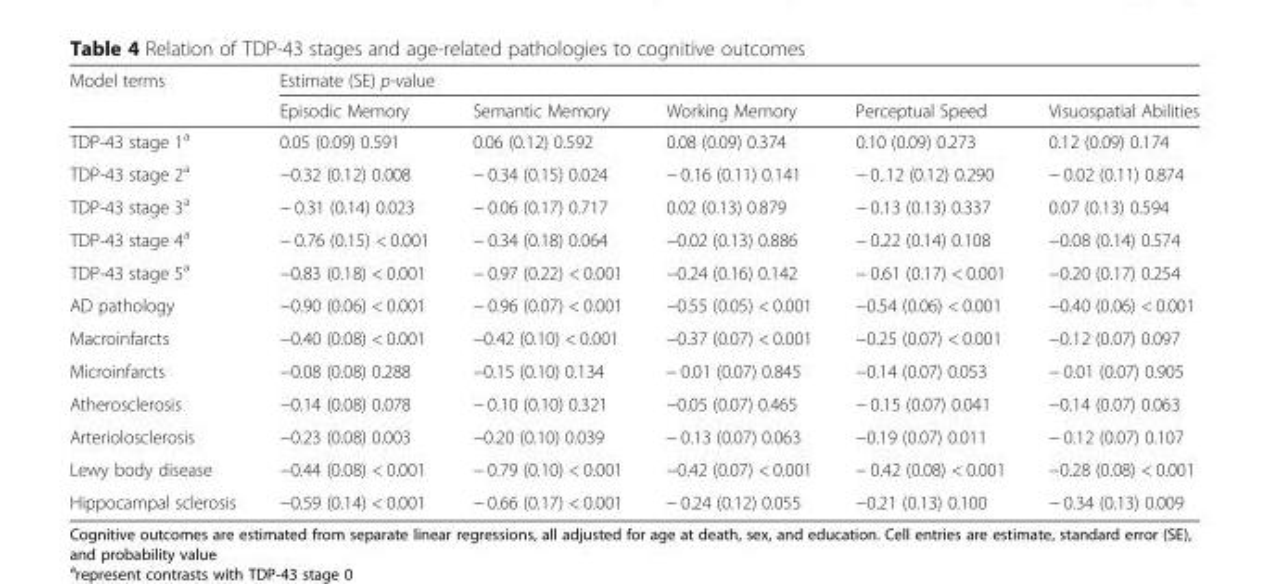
<table><thead><tr><td rowspan="2">Model terms</td><td colspan="5">Estimate (SE) p-value</td></tr><tr><td>Episodic Memory</td><td>Semantic Memory</td><td>Working Memory</td><td>Perceptual Speed</td><td>Visuospatial Abilities</td></tr></thead><tbody><tr><td>TDP-43 stage 1<sup>a</sup></td><td>0.05 (0.09) 0.591</td><td>0.06 (0.12) 0.592</td><td>0.08 (0.09) 0.374</td><td>0.10 (0.09) 0.273</td><td>0.12 (0.09) 0.174</td></tr><tr><td>TDP-43 stage 2<sup>a</sup></td><td>−0.32 (0.12) 0.008</td><td>− 0.34 (0.15) 0.024</td><td>− 0.16 (0.11) 0.141</td><td>− 0..12 (0.12) 0.290</td><td>− 0.02 (0.11) 0.874</td></tr><tr><td>TDP-43 stage 3<sup>a</sup></td><td>− 0.31 (0.14) 0.023</td><td>− 0.06 (0.17) 0.717</td><td>0.02 (0.13) 0.879</td><td>− 0.13 (0.13) 0.337</td><td>0.07 (0.13) 0.594</td></tr><tr><td>TDP-43 stage 4<sup>a</sup></td><td>− 0.76 (0.15) &lt; 0.001</td><td>− 0.34 (0.18) 0.064</td><td>−0.02 (0.13) 0.886</td><td>− 0.22 (0.14) 0.108</td><td>−0.08 (0.14) 0.574</td></tr><tr><td>TDP-43 stage 5<sup>a</sup></td><td>−0.83 (0.18) &lt; 0.001</td><td>− 0.97 (0.22) &lt; 0.001</td><td>−0.24 (0.16) 0.142</td><td>− 0.61 (0.17) &lt; 0.001</td><td>−0.20 (0.17) 0.254</td></tr><tr><td>AD pathology</td><td>−0.90 (0.06) &lt; 0.001</td><td>− 0.96 (0.07) &lt; 0.001</td><td>−0.55 (0.05) &lt; 0.001</td><td>−0.54 (0.06) &lt; 0.001</td><td>−0.40 (0.06) &lt; 0.001</td></tr><tr><td>Macroinfarcts</td><td>−0.40 (0.08) &lt; 0.001</td><td>−0.42 (0.10) &lt; 0.001</td><td>−0.37 (0.07) &lt; 0.001</td><td>−0.25 (0.07) &lt; 0.001</td><td>−0.12 (0.07) 0.097</td></tr><tr><td>Microinfarcts</td><td>−0.08 (0.08) 0.288</td><td>−0.15 (0.10) 0.134</td><td>− 0.01 (0.07) 0.845</td><td>−0.14 (0.07) 0.053</td><td>− 0.01 (0.07) 0.905</td></tr><tr><td>Atherosclerosis</td><td>−0.14 (0.08) 0.078</td><td>− 0.10 (0.10) 0.321</td><td>−0.05 (0.07) 0.465</td><td>− 0.15 (0.07) 0.041</td><td>−0.14 (0.07) 0.063</td></tr><tr><td>Arteriolosclerosis</td><td>−0.23 (0.08) 0.003</td><td>−0.20 (0.10) 0.039</td><td>− 0.13 (0.07) 0.063</td><td>−0.19 (0.07) 0.011</td><td>− 0.12 (0.07) 0.107</td></tr><tr><td>Lewy body disease</td><td>−0.44 (0.08) &lt; 0.001</td><td>− 0.79 (0.10) &lt; 0.001</td><td>−0.42 (0.07) &lt; 0.001</td><td>− 0.42 (0.08) &lt; 0.001</td><td>−0.28 (0.08) &lt; 0.001</td></tr><tr><td>Hippocampal sclerosis</td><td>−0.59 (0.14) &lt; 0.001</td><td>− 0.66 (0.17) &lt; 0.001</td><td>− 0.24 (0.12) 0.055</td><td>−0.21 (0.13) 0.100</td><td>− 0.34 (0.13) 0.009</td></tr></tbody></table>